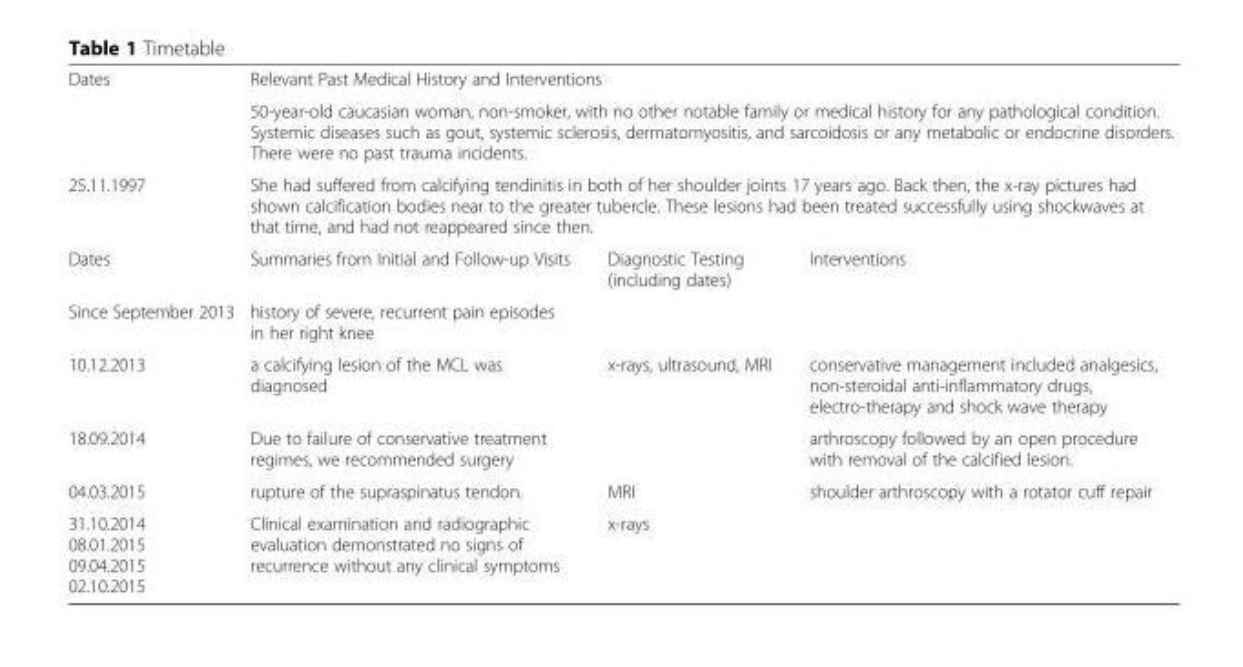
<table><tbody><tr><td rowspan="2">Dates</td><td colspan="3">Relevant Past Medical History and Interventions</td></tr><tr><td colspan="3">50-year-old caucasian woman, non-smoker, with no other notable family or medical history for any pathological condition. Systemic diseases such as gout, systemic sclerosis, dermatomyositis, and sarcoidosis or any metabolic or endocrine disorders. There were no past trauma incidents.</td></tr><tr><td>25.11.1997</td><td colspan="3">She had suffered from calcifying tendinitis in both of her shoulder joints 17 years ago. Back then, the x-ray pictures had shown calcification bodies near to the greater tubercle. These lesions had been treated successfully using shockwaves at that time, and had not reappeared since then.</td></tr><tr><td>Dates</td><td>Summaries from Initial and Follow-up Visits</td><td>Diagnostic Testing (including dates)</td><td>Interventions</td></tr><tr><td>Since September 2013</td><td>history of severe, recurrent pain episodes in her right knee</td><td></td><td></td></tr><tr><td>10.12.2013</td><td>a calcifying lesion of the MCL was diagnosed</td><td>x-rays, ultrasound, MRI</td><td>conservative management included analgesics, non-steroidal anti-inflammatory drugs, electro-therapy and shock wave therapy</td></tr><tr><td>18.09.2014</td><td>Due to failure of conservative treatment regimes, we recommended surgery</td><td></td><td>arthroscopy followed by an open procedure with removal of the calcified lesion.</td></tr><tr><td>04.03.2015</td><td>rupture of the supraspinatus tendon.</td><td>MRI</td><td>shoulder arthroscopy with a rotator cuff repair</td></tr><tr><td>31.10.2014 08.01.2015 09.04.2015 02.10.2015</td><td>Clinical examination and radiographic evaluation demonstrated no signs of recurrence without any clinical symptoms</td><td>x-rays</td><td></td></tr></tbody></table>